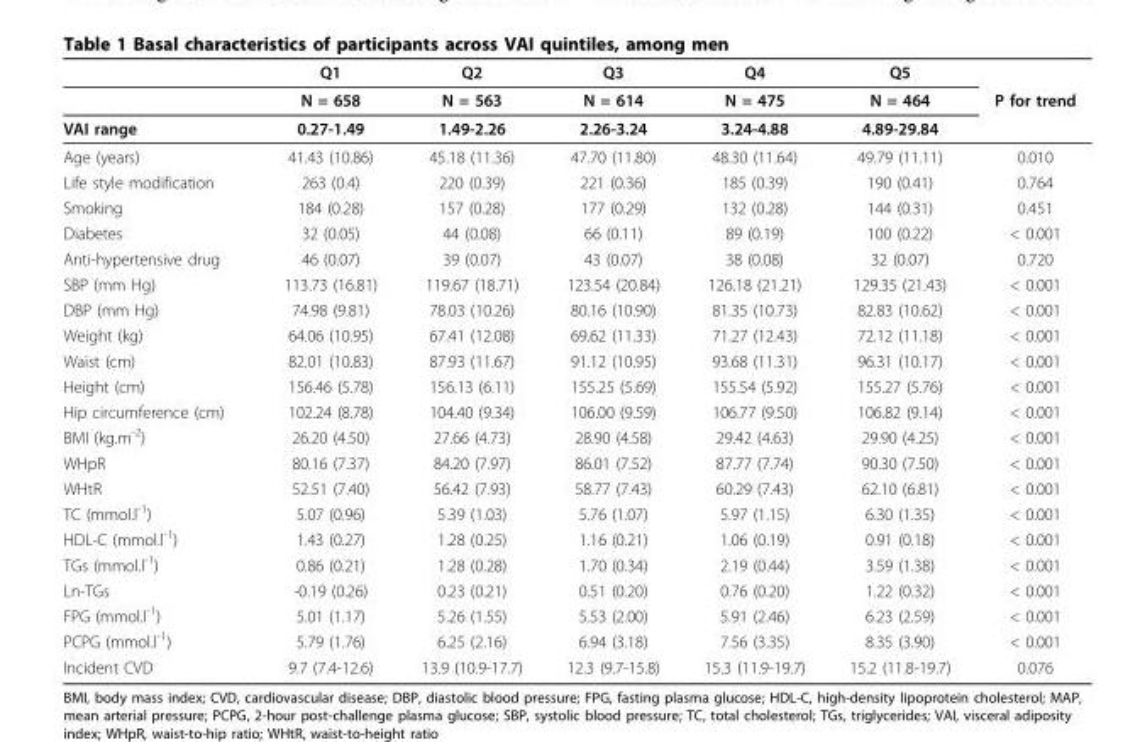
<table><thead><tr><td rowspan="3">VAI range</td><td rowspan="3">Q1 N = 658 0.27-1.49</td><td rowspan="3">Q2 N = 563 1.49-2.26</td><td rowspan="3">Q3 N = 614 2.26-3.24</td><td rowspan="3">Q4 N = 475 3.24-4.88</td><td rowspan="3">Q5 N = 464 4.89-29.84</td><td rowspan="3">P for trend</td></tr><tr></tr><tr></tr></thead><tbody><tr><td>Age (years)</td><td>41.43 (10.86)</td><td>45.18 (11.36)</td><td>47.70 (11.80)</td><td>48.30 (11.64)</td><td>49.79 (11.11)</td><td>0.010</td></tr><tr><td>Life style modification</td><td>263 (0.4)</td><td>220 (0.39)</td><td>221 (0.36)</td><td>185 (0.39)</td><td>190 (0.41)</td><td>0.764</td></tr><tr><td>Smoking</td><td>184 (0.28)</td><td>157 (0.28)</td><td>177 (0.29)</td><td>132 (0.28)</td><td>144 (0.31)</td><td>0.451</td></tr><tr><td>Diabetes</td><td>32 (0.05)</td><td>44 (0.08)</td><td>66 (0.11)</td><td>89 (0.19)</td><td>100 (0.22)</td><td>&lt; 0.001</td></tr><tr><td>Anti-hypertensive drug</td><td>46 (0.07)</td><td>39 (0.07)</td><td>43 (0.07)</td><td>38 (0.08)</td><td>32 (0.07)</td><td>0.720</td></tr><tr><td>SBP (mm Hg)</td><td>113.73 (16.81)</td><td>119.67 (18.71)</td><td>123.54 (20.84)</td><td>126.18 (21.21)</td><td>129.35 (21.43)</td><td>&lt; 0.001</td></tr><tr><td>DBP (mm Hg)</td><td>74.98 (9.81)</td><td>78.03 (10.26)</td><td>80.16 (10.90)</td><td>81.35 (10.73)</td><td>82.83 (10.62)</td><td>&lt; 0.001</td></tr><tr><td>Weight (kg)</td><td>64.06 (10.95)</td><td>67.41 (12.08)</td><td>69.62 (11.33)</td><td>71.27 (12.43)</td><td>72.12 (11.18)</td><td>&lt; 0.001</td></tr><tr><td>Waist (cm)</td><td>82.01 (10.83)</td><td>87.93 (11.67)</td><td>91.12 (10.95)</td><td>93.68 (11.31)</td><td>96.31 (10.17)</td><td>&lt; 0.001</td></tr><tr><td>Height (cm)</td><td>156.46 (5.78)</td><td>156.13 (6.11)</td><td>155.25 (5.69)</td><td>155.54 (5.92)</td><td>155.27 (5.76)</td><td>&lt; 0.001</td></tr><tr><td>Hip circumference (cm)</td><td>102.24 (8.78)</td><td>104.40 (9.34)</td><td>106.00 (9.59)</td><td>106.77 (9.50)</td><td>106.82 (9.14)</td><td>&lt; 0.001</td></tr><tr><td>BMI (kg.m<sup>-2</sup>)</td><td>26.20 (4.50)</td><td>27.66 (4.73)</td><td>28.90 (4.58)</td><td>29.42 (4.63)</td><td>29.90 (4.25)</td><td>&lt; 0.001</td></tr><tr><td>WHpR</td><td>80.16 (7.37)</td><td>84.20 (7.97)</td><td>86.01 (7.52)</td><td>87.77 (7.74)</td><td>90.30 (7.50)</td><td>&lt; 0.001</td></tr><tr><td>WHtR</td><td>52.51 (7.40)</td><td>56.42 (7.93)</td><td>58.77 (7.43)</td><td>60.29 (7.43)</td><td>62.10 (6.81)</td><td>&lt; 0.001</td></tr><tr><td>TC (mmol.l<sup>-1</sup>)</td><td>5.07 (0.96)</td><td>5.39 (1.03)</td><td>5.76 (1.07)</td><td>5.97 (1.15)</td><td>6.30 (1.35)</td><td>&lt; 0.001</td></tr><tr><td>HDL-C (mmol.l<sup>-1</sup>)</td><td>1.43 (0.27)</td><td>1.28 (0.25)</td><td>1.16 (0.21)</td><td>1.06 (0.19)</td><td>0.91 (0.18)</td><td>&lt; 0.001</td></tr><tr><td>TGs (mmol.l<sup>-1</sup>)</td><td>0.86 (0.21)</td><td>1.28 (0.28)</td><td>1.70 (0.34)</td><td>2.19 (0.44)</td><td>3.59 (1.38)</td><td>&lt; 0.001</td></tr><tr><td>Ln-TGs</td><td>-0.19 (0.26)</td><td>0.23 (0.21)</td><td>0.51 (0.20)</td><td>0.76 (0.20)</td><td>1.22 (0.32)</td><td>&lt; 0.001</td></tr><tr><td>FPG (mmol.l<sup>-1</sup>)</td><td>5.01 (1.17)</td><td>5.26 (1.55)</td><td>5.53 (2.00)</td><td>5.91 (2.46)</td><td>6.23 (2.59)</td><td>&lt; 0.001</td></tr><tr><td>PCPG (mmol.l<sup>-1</sup>)</td><td>5.79 (1.76)</td><td>6.25 (2.16)</td><td>6.94 (3.18)</td><td>7.56 (3.35)</td><td>8.35 (3.90)</td><td>&lt; 0.001</td></tr><tr><td>Incident CVD</td><td>9.7 (7.4-12.6)</td><td>13.9 (10.9-17.7)</td><td>12.3 (9.7-15.8)</td><td>15.3 (11.9-19.7)</td><td>15.2 (11.8-19.7)</td><td>0.076</td></tr></tbody></table>